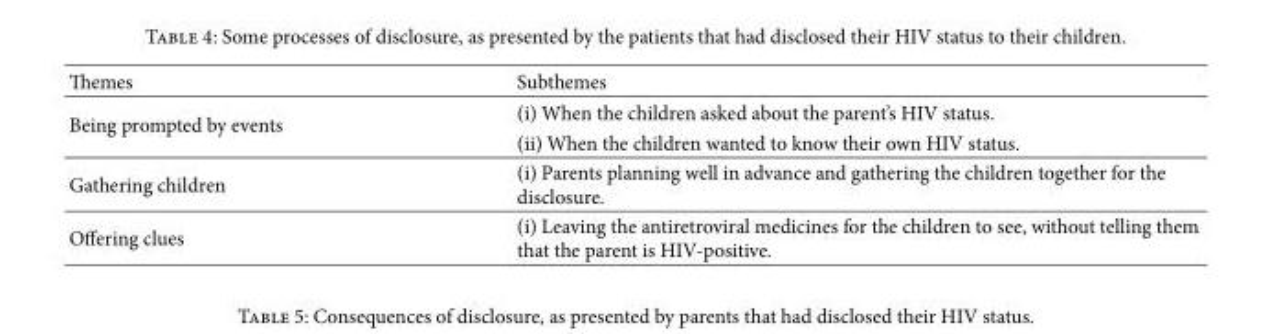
<table><thead><tr><td>Themes</td><td>Subthemes</td></tr></thead><tbody><tr><td rowspan="2">Being prompted by events</td><td>(i) When the children asked about the parent’s HIV status.</td></tr><tr><td>(ii) When the children wanted to know their own HIV status.</td></tr><tr><td>Gathering children</td><td>(i) Parents planning well in advance and gathering the children together for the disclosure.</td></tr><tr><td>Offering clues</td><td>(i) Leaving the antiretroviral medicines for the children to see, without telling them that the parent is HIV-positive.</td></tr></tbody></table>